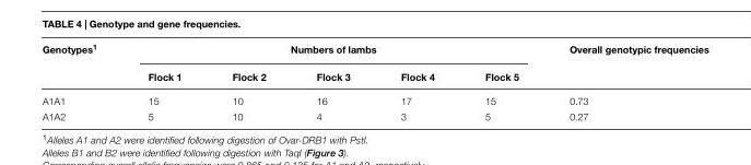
<table><thead><tr><td rowspan="2">Genotypes<sup>1</sup></td><td colspan="5">Numbers of lambs</td><td rowspan="2">Overall genotypic frequencies</td></tr><tr><td>Flock 1</td><td>Flock 2</td><td>Flock 3</td><td>Flock 4</td><td>Flock 5</td></tr></thead><tbody><tr><td>A1A1</td><td>15</td><td>10</td><td>16</td><td>17</td><td>15</td><td>0.73</td></tr><tr><td>A1A2</td><td>5</td><td>10</td><td>4</td><td>3</td><td>5</td><td>0.27</td></tr></tbody></table>